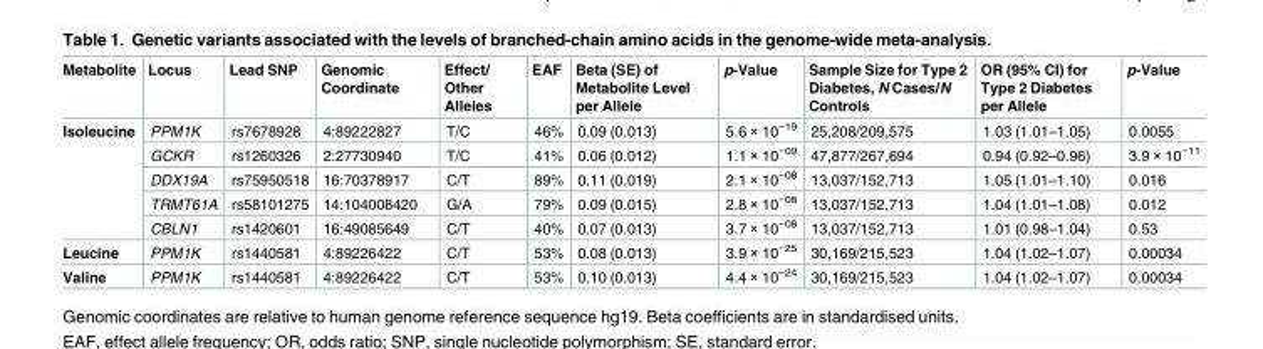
<table><thead><tr><td>Metabolite</td><td>Locus</td><td>Lead SNP</td><td>Genomic Coordinate</td><td>Effect/ Other Alleles</td><td>EAF</td><td>Beta (SE) of Metabolite Level per Allele</td><td>p-Value</td><td>Sample Size for Type 2 Diabetes, N Cases/N Controls</td><td>OR (95% CI) for Type 2 Diabetes per Allele</td><td>p-Value</td></tr></thead><tbody><tr><td rowspan="5">Isoleucine</td><td>PPM1K</td><td>rs7678928</td><td>4:89222827</td><td>T/C</td><td>46%</td><td>0.09 (0.013)</td><td>5.6 × 10<sup>−19</sup></td><td>25,208/209,575</td><td>1.03 (1.01–1.05)</td><td>0.0055</td></tr><tr><td>GCKR</td><td>rs1260326</td><td>2:27730940</td><td>T/C</td><td>41%</td><td>0.06 (0.012)</td><td>1.1 × 10<sup>−09</sup></td><td>47,877/267,694</td><td>0.94 (0.92–0.96)</td><td>3.9 × 10<sup>−11</sup></td></tr><tr><td>DDX19A</td><td>rs75950518</td><td>16:70378917</td><td>C/T</td><td>89%</td><td>0.11 (0.019)</td><td>2.1 × 10<sup>−08</sup></td><td>13,037/152,713</td><td>1.05 (1.01–1.10)</td><td>0.016</td></tr><tr><td>TRMT61A</td><td>rs58101275</td><td>14:104008420</td><td>G/A</td><td>79%</td><td>0.09 (0.015)</td><td>2.8 × 10<sup>−08</sup></td><td>13,037/152,713</td><td>1.04 (1.01–1.08)</td><td>0.012</td></tr><tr><td>CBLN1</td><td>rs1420601</td><td>16:49085649</td><td>C/T</td><td>40%</td><td>0.07 (0.013)</td><td>3.7 × 10<sup>−08</sup></td><td>13,037/152,713</td><td>1.01 (0.98–1.04)</td><td>0.53</td></tr><tr><td>Leucine</td><td>PPM1K</td><td>rs1440581</td><td>4:89226422</td><td>C/T</td><td>53%</td><td>0.08 (0.013)</td><td>3.9 × 10<sup>−25</sup></td><td>30,169/215,523</td><td>1.04 (1.02–1.07)</td><td>0.00034</td></tr><tr><td>Valine</td><td>PPM1K</td><td>rs1440581</td><td>4:89226422</td><td>C/T</td><td>53%</td><td>0.10 (0.013)</td><td>4.4 × 10<sup>−24</sup></td><td>30,169/215,523</td><td>1.04 (1.02–1.07)</td><td>0.00034</td></tr></tbody></table>